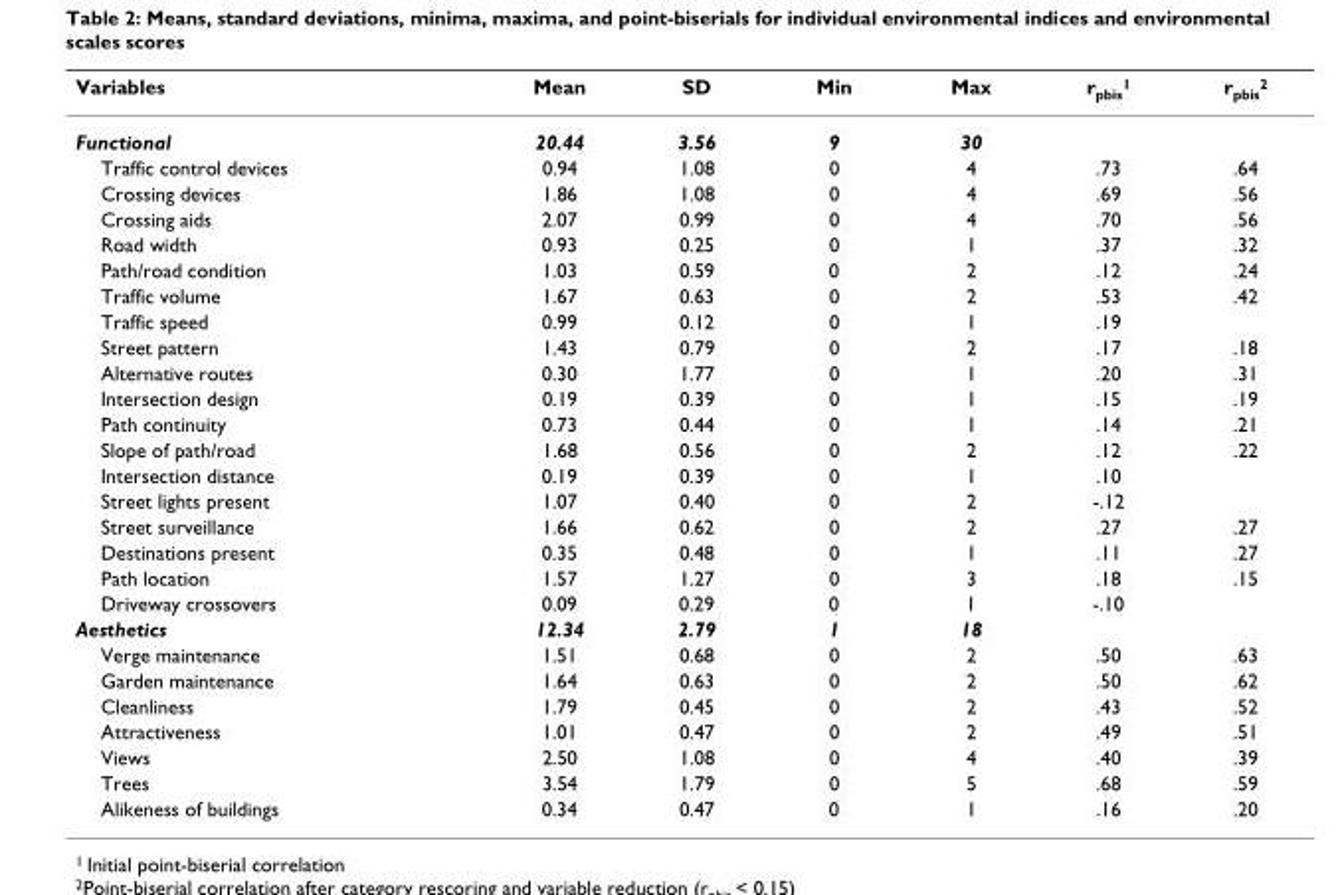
<table><thead><tr><td>Variables</td><td>Mean</td><td>SD</td><td>Min</td><td>Max</td><td>r<sub>pbis</sub><sup>1</sup></td><td>r<sub>pbis</sub><sup>2</sup></td></tr></thead><tbody><tr><td>Functional</td><td>20.44</td><td>3.56</td><td>9</td><td>30</td><td></td><td></td></tr><tr><td>Traffic control devices</td><td>0.94</td><td>1.08</td><td>0</td><td>4</td><td>.73</td><td>.64</td></tr><tr><td>Crossing devices</td><td>1.86</td><td>1.08</td><td>0</td><td>4</td><td>.69</td><td>.56</td></tr><tr><td>Crossing aids</td><td>2.07</td><td>0.99</td><td>0</td><td>4</td><td>.70</td><td>.56</td></tr><tr><td>Road width</td><td>0.93</td><td>0.25</td><td>0</td><td>1</td><td>.37</td><td>.32</td></tr><tr><td>Path/road condition</td><td>1.03</td><td>0.59</td><td>0</td><td>2</td><td>.12</td><td>.24</td></tr><tr><td>Traffic volume</td><td>1.67</td><td>0.63</td><td>0</td><td>2</td><td>.53</td><td>.42</td></tr><tr><td>Traffic speed</td><td>0.99</td><td>0.12</td><td>0</td><td>1</td><td>.19</td><td></td></tr><tr><td>Street pattern</td><td>1.43</td><td>0.79</td><td>0</td><td>2</td><td>.17</td><td>.18</td></tr><tr><td>Alternative routes</td><td>0.30</td><td>1.77</td><td>0</td><td>1</td><td>.20</td><td>.31</td></tr><tr><td>Intersection design</td><td>0.19</td><td>0.39</td><td>0</td><td>1</td><td>.15</td><td>.19</td></tr><tr><td>Path continuity</td><td>0.73</td><td>0.44</td><td>0</td><td>1</td><td>.14</td><td>.21</td></tr><tr><td>Slope of path/road</td><td>1.68</td><td>0.56</td><td>0</td><td>2</td><td>.12</td><td>.22</td></tr><tr><td>Intersection distance</td><td>0.19</td><td>0.39</td><td>0</td><td>1</td><td>.10</td><td></td></tr><tr><td>Street lights present</td><td>1.07</td><td>0.40</td><td>0</td><td>2</td><td>-.12</td><td></td></tr><tr><td>Street surveillance</td><td>1.66</td><td>0.62</td><td>0</td><td>2</td><td>.27</td><td>.27</td></tr><tr><td>Destinations present</td><td>0.35</td><td>0.48</td><td>0</td><td>1</td><td>.11</td><td>.27</td></tr><tr><td>Path location</td><td>1.57</td><td>1.27</td><td>0</td><td>3</td><td>.18</td><td>.15</td></tr><tr><td>Driveway crossovers</td><td>0.09</td><td>0.29</td><td>0</td><td>1</td><td>-.10</td><td></td></tr><tr><td>Aesthetics</td><td>12.34</td><td>2.79</td><td>1</td><td>18</td><td></td><td></td></tr><tr><td>Verge maintenance</td><td>1.51</td><td>0.68</td><td>0</td><td>2</td><td>.50</td><td>.63</td></tr><tr><td>Garden maintenance</td><td>1.64</td><td>0.63</td><td>0</td><td>2</td><td>.50</td><td>.62</td></tr><tr><td>Cleanliness</td><td>1.79</td><td>0.45</td><td>0</td><td>2</td><td>.43</td><td>.52</td></tr><tr><td>Attractiveness</td><td>1.01</td><td>0.47</td><td>0</td><td>2</td><td>.49</td><td>.51</td></tr><tr><td>Views</td><td>2.50</td><td>1.08</td><td>0</td><td>4</td><td>.40</td><td>.39</td></tr><tr><td>Trees</td><td>3.54</td><td>1.79</td><td>0</td><td>5</td><td>.68</td><td>.59</td></tr><tr><td>Alikeness of buildings</td><td>0.34</td><td>0.47</td><td>0</td><td>1</td><td>.16</td><td>.20</td></tr></tbody></table>